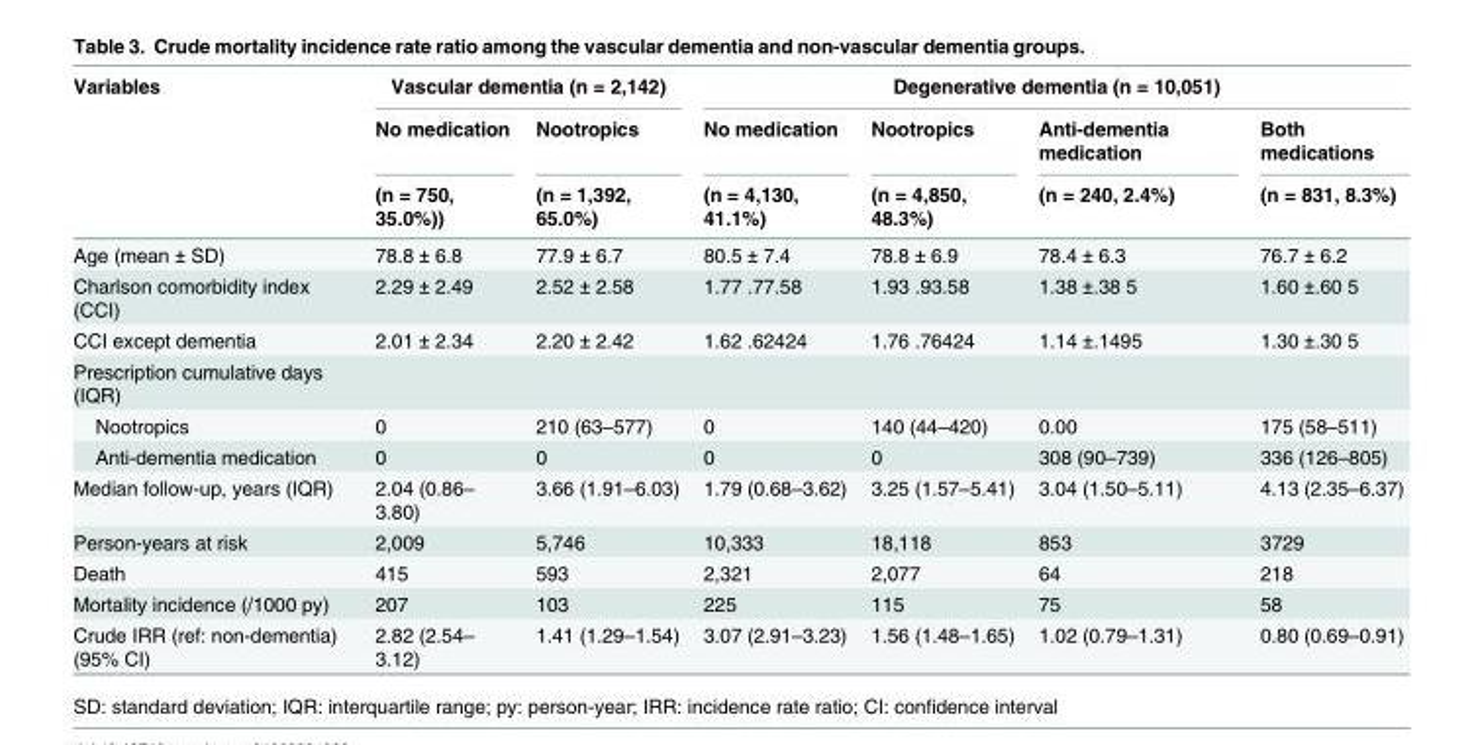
<table><thead><tr><td rowspan="3">Variables</td><td colspan="2">Vascular dementia (n = 2,142)</td><td colspan="4">Degenerative dementia (n = 10,051)</td></tr><tr><td rowspan="2">No medication (n = 750, 35.0%))</td><td rowspan="2">Nootropics (n = 1,392, 65.0%)</td><td rowspan="2">No medication (n = 4,130, 41.1%)</td><td rowspan="2">Nootropics (n = 4,850, 48.3%)</td><td rowspan="2">Anti-dementia medication (n = 240, 2.4%)</td><td rowspan="2">Both medications (n = 831, 8.3%)</td></tr><tr></tr></thead><tbody><tr><td>Age (mean ± SD)</td><td>78.8 ± 6.8</td><td>77.9 ± 6.7</td><td>80.5 ± 7.4</td><td>78.8 ± 6.9</td><td>78.4 ± 6.3</td><td>76.7 ± 6.2</td></tr><tr><td>Charlson comorbidity index (CCI)</td><td>2.29 ± 2.49</td><td>2.52 ± 2.58</td><td>1.77 .77.58</td><td>1.93 .93.58</td><td>1.38 ±.38 5</td><td>1.60 ±.60 5</td></tr><tr><td>CCI except dementia</td><td>2.01 ± 2.34</td><td>2.20 ± 2.42</td><td>1.62 .62424</td><td>1.76 .76424</td><td>1.14 ±.1495</td><td>1.30 ±.30 5</td></tr><tr><td colspan="7">Prescription cumulative days (IQR)</td></tr><tr><td>Nootropics</td><td>0</td><td>210 (63–577)</td><td>0</td><td>140 (44–420)</td><td>0.00</td><td>175 (58–511)</td></tr><tr><td>Anti-dementia medication</td><td>0</td><td>0</td><td>0</td><td>0</td><td>308 (90–739)</td><td>336 (126–805)</td></tr><tr><td>Median follow-up, years (IQR)</td><td>2.04 (0.86– 3.80)</td><td>3.66 (1.91–6.03)</td><td>1.79 (0.68–3.62)</td><td>3.25 (1.57–5.41)</td><td>3.04 (1.50–5.11)</td><td>4.13 (2.35–6.37)</td></tr><tr><td>Person-years at risk</td><td>2,009</td><td>5,746</td><td>10,333</td><td>18,118</td><td>853</td><td>3729</td></tr><tr><td>Death</td><td>415</td><td>593</td><td>2,321</td><td>2,077</td><td>64</td><td>218</td></tr><tr><td>Mortality incidence (/1000 py)</td><td>207</td><td>103</td><td>225</td><td>115</td><td>75</td><td>58</td></tr><tr><td>Crude IRR (ref: non-dementia) (95% CI)</td><td>2.82 (2.54– 3.12)</td><td>1.41 (1.29–1.54)</td><td>3.07 (2.91–3.23)</td><td>1.56 (1.48–1.65)</td><td>1.02 (0.79–1.31)</td><td>0.80 (0.69–0.91)</td></tr></tbody></table>